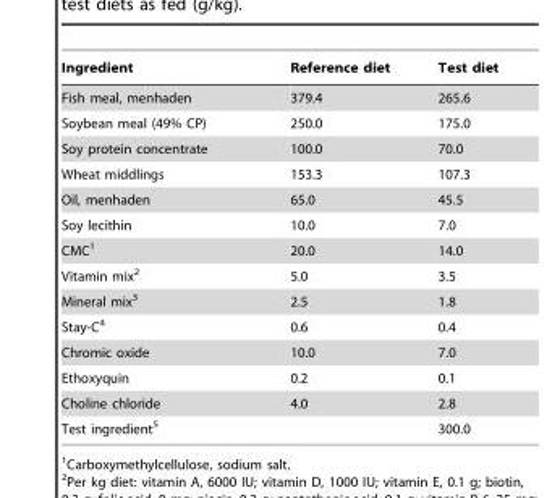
<table><thead><tr><td>Ingredient</td><td>Reference diet</td><td>Test diet</td></tr></thead><tbody><tr><td>Fish meal, menhaden</td><td>379.4</td><td>265.6</td></tr><tr><td>Soybean meal (49% CP)</td><td>250.0</td><td>175.0</td></tr><tr><td>Soy protein concentrate</td><td>100.0</td><td>70.0</td></tr><tr><td>Wheat middlings</td><td>153.3</td><td>107.3</td></tr><tr><td>Oil, menhaden</td><td>65.0</td><td>45.5</td></tr><tr><td>Soy lecithin</td><td>10.0</td><td>7.0</td></tr><tr><td>CMC<sup>1</sup></td><td>20.0</td><td>14.0</td></tr><tr><td>Vitamin mix<sup>2</sup></td><td>5.0</td><td>3.5</td></tr><tr><td>Mineral mix<sup>3</sup></td><td>2.5</td><td>1.8</td></tr><tr><td>Stay-C<sup>4</sup></td><td>0.6</td><td>0.4</td></tr><tr><td>Chromic oxide</td><td>10.0</td><td>7.0</td></tr><tr><td>Ethoxyquin</td><td>0.2</td><td>0.1</td></tr><tr><td>Choline chloride</td><td>4.0</td><td>2.8</td></tr><tr><td>Test ingredient<sup>5</sup></td><td></td><td>300.0</td></tr></tbody></table>